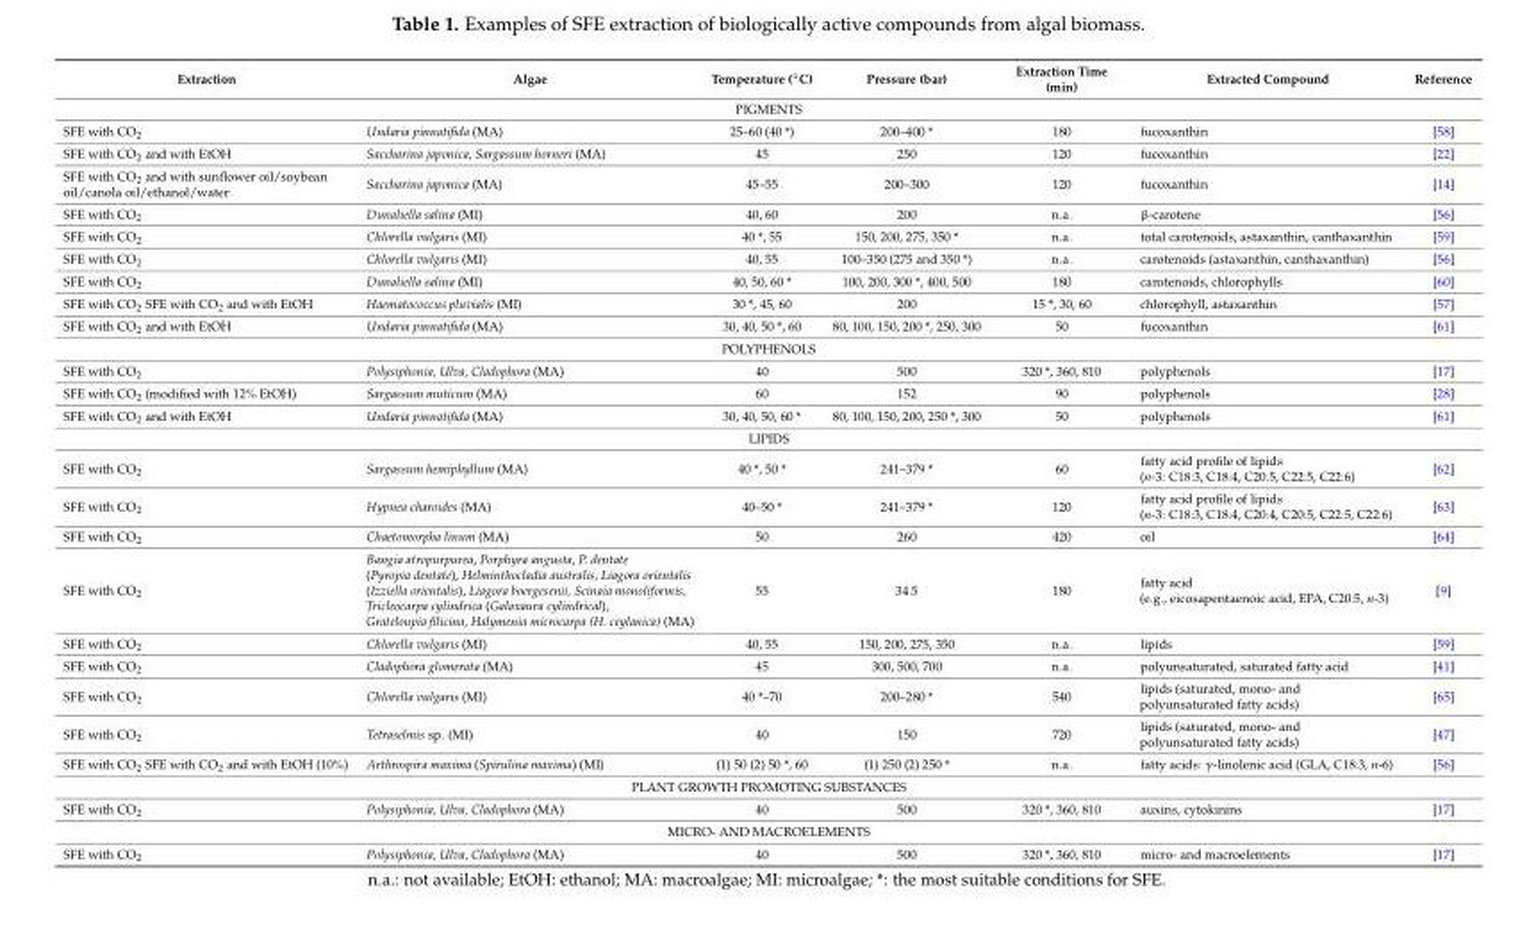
<table><thead><tr><td>Extraction</td><td>Algae</td><td>Temperature (◦C)</td><td>Pressure (bar)</td><td>Extraction Time (min)</td><td>Extracted Compound</td><td>Reference</td></tr></thead><tbody><tr><td colspan="7">PIGMENTS</td></tr><tr><td>SFE with CO<sub>2</sub></td><td>Undaria pinnatifida (MA)</td><td>25–60 (40 *)</td><td>200–400 *</td><td>180</td><td>fucoxanthin</td><td>[58]</td></tr><tr><td>SFE with CO<sub>2</sub> and with EtOH</td><td>Saccharina japonica, Sargassum horneri (MA)</td><td>45</td><td>250</td><td>120</td><td>fucoxanthin</td><td>[22]</td></tr><tr><td>SFE with CO<sub>2</sub> and with sunflower oil/soybean oil/canola oil/ethanol/water</td><td>Saccharina japonica (MA)</td><td>45–55</td><td>200–300</td><td>120</td><td>fucoxanthin</td><td>[14]</td></tr><tr><td>SFE with CO<sub>2</sub></td><td>Dunaliella salina (MI)</td><td>40, 60</td><td>200</td><td>n.a.</td><td>β-carotene</td><td>[56]</td></tr><tr><td>SFE with CO<sub>2</sub></td><td>Chlorella vulgaris (MI)</td><td>40 *, 55</td><td>150, 200, 275, 350 *</td><td>n.a.</td><td>total carotenoids, astaxanthin, canthaxanthin</td><td>[59]</td></tr><tr><td>SFE with CO<sub>2</sub></td><td>Chlorella vulgaris (MI)</td><td>40, 55</td><td>100–350 (275 and 350 *)</td><td>n.a.</td><td>carotenoids (astaxanthin, canthaxanthin)</td><td>[56]</td></tr><tr><td>SFE with CO<sub>2</sub></td><td>Dunaliella salina (MI)</td><td>40, 50, 60 *</td><td>100, 200, 300 *, 400, 500</td><td>180</td><td>carotenoids, chlorophylls</td><td>[60]</td></tr><tr><td>SFE with CO<sub>2</sub> SFE with CO<sub>2</sub> and with EtOH</td><td>Haematococcus pluvialis (MI)</td><td>30 *, 45, 60</td><td>200</td><td>15 *, 30, 60</td><td>chlorophyll, astaxanthin</td><td>[57]</td></tr><tr><td>SFE with CO<sub>2</sub> and with EtOH</td><td>Undaria pinnatifida (MA)</td><td>30, 40, 50 *, 60</td><td>80, 100, 150, 200 *, 250, 300</td><td>50</td><td>fucoxanthin</td><td>[61]</td></tr><tr><td colspan="7">POLYPHENOLS</td></tr><tr><td>SFE with CO<sub>2</sub></td><td>Polysiphonia, Ulva, Cladophora (MA)</td><td>40</td><td>500</td><td>320 *, 360, 810</td><td>polyphenols</td><td>[17]</td></tr><tr><td>SFE with CO<sub>2</sub> (modified with 12% EtOH)</td><td>Sargassum muticum (MA)</td><td>60</td><td>152</td><td>90</td><td>polyphenols</td><td>[28]</td></tr><tr><td>SFE with CO<sub>2</sub> and with EtOH</td><td>Undaria pinnatifida (MA)</td><td>30, 40, 50, 60 *</td><td>80, 100, 150, 200, 250 *, 300</td><td>50</td><td>polyphenols</td><td>[61]</td></tr><tr><td colspan="7">LIPIDS</td></tr><tr><td>SFE with CO<sub>2</sub></td><td>Sargassum hemiphyllum (MA)</td><td>40 *, 50 *</td><td>241–379 *</td><td>60</td><td>fatty acid profile of lipids (n-3: C18:3, C18:4, C20:5, C22:5, C22:6)</td><td>[62]</td></tr><tr><td>SFE with CO<sub>2</sub></td><td>Hypnea charoides (MA)</td><td>40–50 *</td><td>241–379 *</td><td>120</td><td>fatty acid profile of lipids (n-3: C18:3, C18:4, C20:4, C20:5, C22:5, C22:6)</td><td>[63]</td></tr><tr><td>SFE with CO<sub>2</sub></td><td>Chaetomorpha linum (MA)</td><td>50</td><td>260</td><td>420</td><td>oil</td><td>[64]</td></tr><tr><td>SFE with CO<sub>2</sub></td><td>Bangia atropurpurea, Porphyra angusta, P. dentate (Pyropia dentate), Helminthocladia australis, Liagora orientalis (Izziella orientalis), Liagora boergesenii, Scinaia monoliformis, Tricleocarpa cylindrica (Galaxaura cylindrical), Grateloupia filicina, Halymenia microcarpa (H. ceylanica) (MA)</td><td>55</td><td>34.5</td><td>180</td><td>fatty acid (e.g., eicosapentaenoic acid, EPA, C20:5, n-3)</td><td>[9]</td></tr><tr><td>SFE with CO<sub>2</sub></td><td>Chlorella vulgaris (MI)</td><td>40, 55</td><td>150, 200, 275, 350</td><td>n.a.</td><td>lipids</td><td>[59]</td></tr><tr><td>SFE with CO<sub>2</sub></td><td>Cladophora glomerata (MA)</td><td>45</td><td>300, 500, 700</td><td>n.a.</td><td>polyunsaturated, saturated fatty acid</td><td>[41]</td></tr><tr><td>SFE with CO<sub>2</sub></td><td>Chlorella vulgaris (MI)</td><td>40 *–70</td><td>200–280 *</td><td>540</td><td>lipids (saturated, mono- and polyunsaturated fatty acids)</td><td>[65]</td></tr><tr><td>SFE with CO<sub>2</sub></td><td>Tetraselmis sp. (MI)</td><td>40</td><td>150</td><td>720</td><td>lipids (saturated, mono- and polyunsaturated fatty acids)</td><td>[47]</td></tr><tr><td>SFE with CO<sub>2</sub> SFE with CO<sub>2</sub> and with EtOH (10%)</td><td>Arthrospira maxima (Spirulina maxima) (MI)</td><td>(1) 50 (2) 50 *, 60</td><td>(1) 250 (2) 250 *</td><td>n.a.</td><td>fatty acids: γ-linolenic acid (GLA, C18:3, n-6)</td><td>[56]</td></tr><tr><td colspan="7">PLANT GROWTH PROMOTING SUBSTANCES</td></tr><tr><td>SFE with CO<sub>2</sub></td><td>Polysiphonia, Ulva, Cladophora (MA)</td><td>40</td><td>500</td><td>320 *, 360, 810</td><td>auxins, cytokinins</td><td>[17]</td></tr><tr><td colspan="7">MICRO- AND MACROELEMENTS</td></tr><tr><td>SFE with CO<sub>2</sub></td><td>Polysiphonia, Ulva, Cladophora (MA)</td><td>40</td><td>500</td><td>320 *, 360, 810</td><td>micro- and macroelements</td><td>[17]</td></tr></tbody></table>